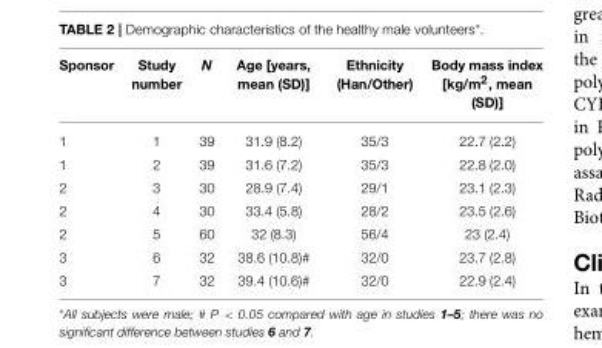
<table><thead><tr><td>Sponsor</td><td>Study number</td><td>N</td><td>Age [years, mean (SD)]</td><td>Ethnicity (Han/Other)</td><td>Body mass index [kg/m<sup>2</sup>, mean (SD)]</td></tr></thead><tbody><tr><td>1</td><td>1</td><td>39</td><td>31.9 (8.2)</td><td>35/3</td><td>22.7 (2.2)</td></tr><tr><td>1</td><td>2</td><td>39</td><td>31.6 (7.2)</td><td>35/3</td><td>22.8 (2.0)</td></tr><tr><td>2</td><td>3</td><td>30</td><td>28.9 (7.4)</td><td>29/1</td><td>23.1 (2.3)</td></tr><tr><td>2</td><td>4</td><td>30</td><td>33.4 (5.8)</td><td>28/2</td><td>23.5 (2.6)</td></tr><tr><td>2</td><td>5</td><td>60</td><td>32 (8.3)</td><td>56/4</td><td>23 (2.4)</td></tr><tr><td>3</td><td>6</td><td>32</td><td>38.6 (10.8)#</td><td>32/0</td><td>23.7 (2.8)</td></tr><tr><td>3</td><td>7</td><td>32</td><td>39.4 (10.6)#</td><td>32/0</td><td>22.9 (2.4)</td></tr></tbody></table>